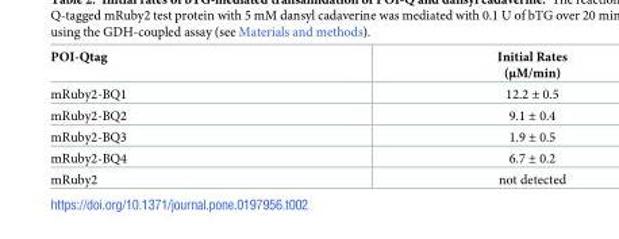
<table><thead><tr><td>POI-Qtag</td><td>Initial Rates (μM/min)</td></tr></thead><tbody><tr><td>mRuby2-BQ1</td><td>12.2 ± 0.5</td></tr><tr><td>mRuby2-BQ2</td><td>9.1 ± 0.4</td></tr><tr><td>mRuby2-BQ3</td><td>1.9 ± 0.5</td></tr><tr><td>mRuby2-BQ4</td><td>6.7 ± 0.2</td></tr><tr><td>mRuby2</td><td>not detected</td></tr></tbody></table>